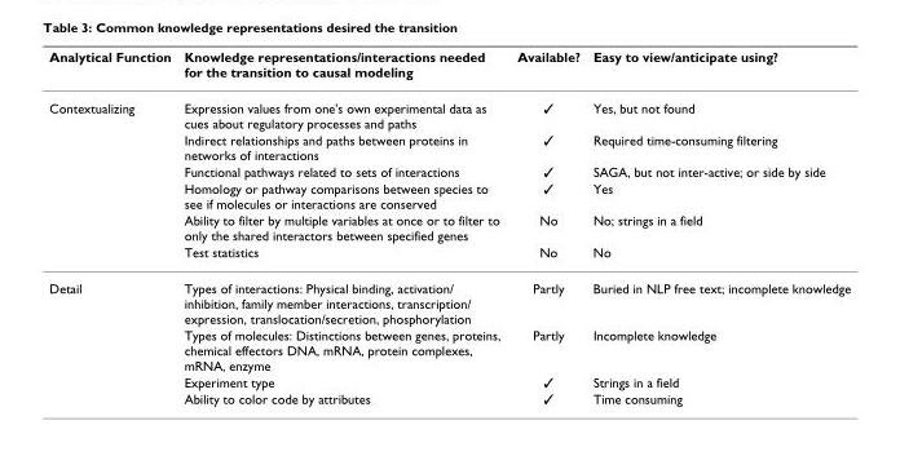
<table><thead><tr><td>Analytical Function</td><td>Knowledge representations/interactions needed for the transition to causal modeling</td><td>Available?</td><td>Easy to view/anticipate using?</td></tr></thead><tbody><tr><td rowspan="6">Contextualizing</td><td>Expression values from one&#x27;s own experimental data as cues about regulatory processes and paths</td><td>✓</td><td>Yes, but not found</td></tr><tr><td>Indirect relationships and paths between proteins in networks of interactions</td><td>✓</td><td>Required time-consuming filtering</td></tr><tr><td>Functional pathways related to sets of interactions</td><td>✓</td><td>SAGA, but not inter-active; or side by side</td></tr><tr><td>Homology or pathway comparisons between species to see if molecules or interactions are conserved</td><td>✓</td><td>Yes</td></tr><tr><td>Ability to filter by multiple variables at once or to filter to only the shared interactors between specified genes</td><td>No</td><td>No; strings in a field</td></tr><tr><td>Test statistics</td><td>No</td><td>No</td></tr><tr><td rowspan="4">Detail</td><td>Types of interactions: Physical binding, activation/ inhibition, family member interactions, transcription/ expression, translocation/secretion, phosphorylation</td><td>Partly</td><td>Buried in NLP free text; incomplete knowledge</td></tr><tr><td>Types of molecules: Distinctions between genes, proteins, chemical effectors DNA, mRNA, protein complexes, mRNA, enzyme</td><td>Partly</td><td>Incomplete knowledge</td></tr><tr><td>Experiment type</td><td>✓</td><td>Strings in a field</td></tr><tr><td>Ability to color code by attributes</td><td>✓</td><td>Time consuming</td></tr></tbody></table>